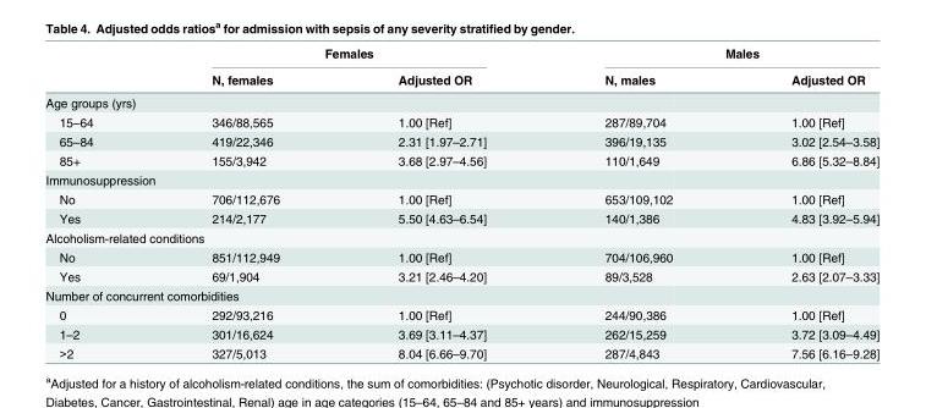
<table><thead><tr><td rowspan="2"></td><td colspan="2">Females</td><td colspan="2">Males</td></tr><tr><td>N, females</td><td>Adjusted OR</td><td>N, males</td><td>Adjusted OR</td></tr></thead><tbody><tr><td colspan="5">Age groups (yrs)</td></tr><tr><td>15–64</td><td>346/88,565</td><td>1.00 [Ref]</td><td>287/89,704</td><td>1.00 [Ref]</td></tr><tr><td>65–84</td><td>419/22,346</td><td>2.31 [1.97–2.71]</td><td>396/19,135</td><td>3.02 [2.54–3.58]</td></tr><tr><td>85+</td><td>155/3,942</td><td>3.68 [2.97–4.56]</td><td>110/1,649</td><td>6.86 [5.32–8.84]</td></tr><tr><td colspan="5">Immunosuppression</td></tr><tr><td>No</td><td>706/112,676</td><td>1.00 [Ref]</td><td>653/109,102</td><td>1.00 [Ref]</td></tr><tr><td>Yes</td><td>214/2,177</td><td>5.50 [4.63–6.54]</td><td>140/1,386</td><td>4.83 [3.92–5.94]</td></tr><tr><td colspan="5">Alcoholism-related conditions</td></tr><tr><td>No</td><td>851/112,949</td><td>1.00 [Ref]</td><td>704/106,960</td><td>1.00 [Ref]</td></tr><tr><td>Yes</td><td>69/1,904</td><td>3.21 [2.46–4.20]</td><td>89/3,528</td><td>2.63 [2.07–3.33]</td></tr><tr><td colspan="5">Number of concurrent comorbidities</td></tr><tr><td>0</td><td>292/93,216</td><td>1.00 [Ref]</td><td>244/90,386</td><td>1.00 [Ref]</td></tr><tr><td>1–2</td><td>301/16,624</td><td>3.69 [3.11–4.37]</td><td>262/15,259</td><td>3.72 [3.09–4.49]</td></tr><tr><td>&gt;2</td><td>327/5,013</td><td>8.04 [6.66–9.70]</td><td>287/4,843</td><td>7.56 [6.16–9.28]</td></tr></tbody></table>